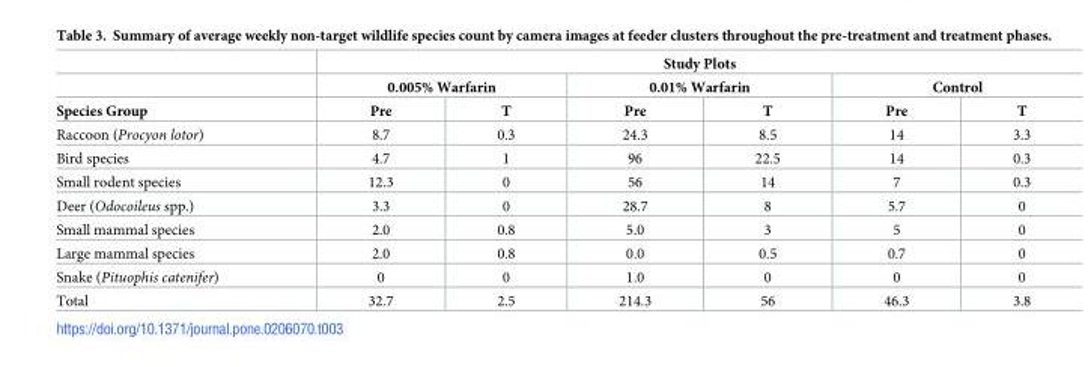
<table><thead><tr><td rowspan="3">Species Group</td><td colspan="6">Study Plots</td></tr><tr><td colspan="2">0.005% Warfarin</td><td colspan="2">0.01% Warfarin</td><td colspan="2">Control</td></tr><tr><td>Pre</td><td>T</td><td>Pre</td><td>T</td><td>Pre</td><td>T</td></tr></thead><tbody><tr><td>Raccoon (Procyon lotor)</td><td>8.7</td><td>0.3</td><td>24.3</td><td>8.5</td><td>14</td><td>3.3</td></tr><tr><td>Bird species</td><td>4.7</td><td>1</td><td>96</td><td>22.5</td><td>14</td><td>0.3</td></tr><tr><td>Small rodent species</td><td>12.3</td><td>0</td><td>56</td><td>14</td><td>7</td><td>0.3</td></tr><tr><td>Deer (Odocoileus spp.)</td><td>3.3</td><td>0</td><td>28.7</td><td>8</td><td>5.7</td><td>0</td></tr><tr><td>Small mammal species</td><td>2.0</td><td>0.8</td><td>5.0</td><td>3</td><td>5</td><td>0</td></tr><tr><td>Large mammal species</td><td>2.0</td><td>0.8</td><td>0.0</td><td>0.5</td><td>0.7</td><td>0</td></tr><tr><td>Snake (Pituophis catenifer)</td><td>0</td><td>0</td><td>1.0</td><td>0</td><td>0</td><td>0</td></tr><tr><td>Total</td><td>32.7</td><td>2.5</td><td>214.3</td><td>56</td><td>46.3</td><td>3.8</td></tr></tbody></table>